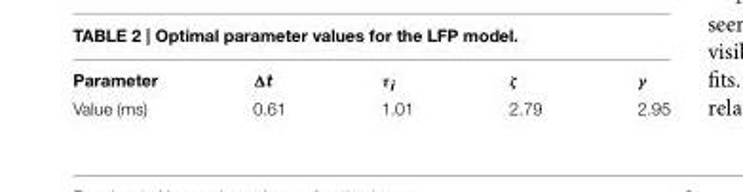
<table><tbody><tr><td>Parameter</td><td>Δt</td><td>τ<sub>i</sub></td><td>ζ</td><td>γ</td></tr><tr><td>Value (ms)</td><td>0.61</td><td>1.01</td><td>2.79</td><td>2.95</td></tr></tbody></table>